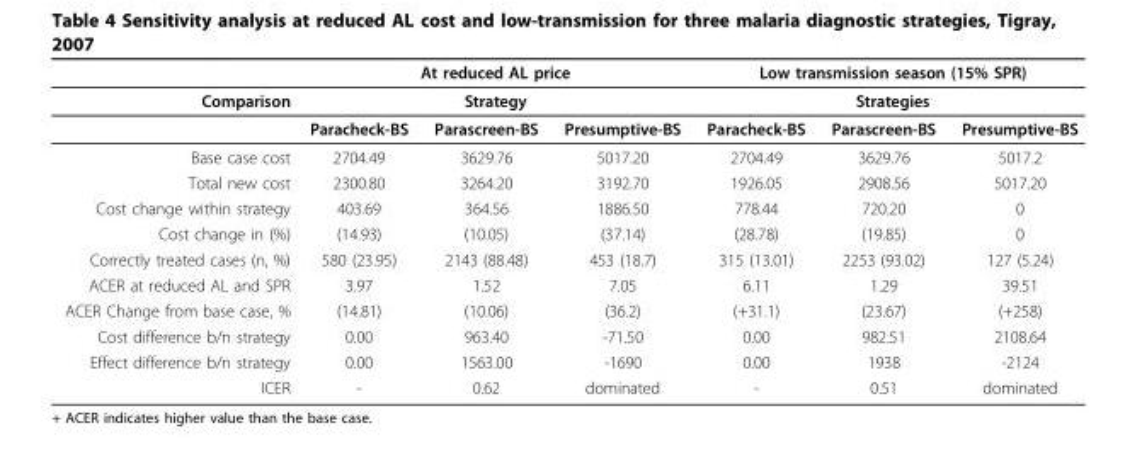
<table><thead><tr><td rowspan="3">Comparison</td><td rowspan="2" colspan="3">At reduced AL price Strategy</td><td rowspan="2" colspan="3">Low transmission season (15% SPR) Strategies</td></tr><tr></tr><tr><td>Paracheck-BS</td><td>Parascreen-BS</td><td>Presumptive-BS</td><td>Paracheck-BS</td><td>Parascreen-BS</td><td>Presumptive-BS</td></tr></thead><tbody><tr><td>Base case cost</td><td>2704.49</td><td>3629.76</td><td>5017.20</td><td>2704.49</td><td>3629.76</td><td>5017.2</td></tr><tr><td>Total new cost</td><td>2300.80</td><td>3264.20</td><td>3192.70</td><td>1926.05</td><td>2908.56</td><td>5017.20</td></tr><tr><td>Cost change within strategy</td><td>403.69</td><td>364.56</td><td>1886.50</td><td>778.44</td><td>720.20</td><td>0</td></tr><tr><td>Cost change in (%)</td><td>(14.93)</td><td>(10.05)</td><td>(37.14)</td><td>(28.78)</td><td>(19.85)</td><td>0</td></tr><tr><td>Correctly treated cases (n, %)</td><td>580 (23.95)</td><td>2143 (88.48)</td><td>453 (18.7)</td><td>315 (13.01)</td><td>2253 (93.02)</td><td>127 (5.24)</td></tr><tr><td>ACER at reduced AL and SPR</td><td>3.97</td><td>1.52</td><td>7.05</td><td>6.11</td><td>1.29</td><td>39.51</td></tr><tr><td>ACER Change from base case, %</td><td>(14.81)</td><td>(10.06)</td><td>(36.2)</td><td>(+31.1)</td><td>(23.67)</td><td>(+258)</td></tr><tr><td>Cost difference b/n strategy</td><td>0.00</td><td>963.40</td><td>-71.50</td><td>0.00</td><td>982.51</td><td>2108.64</td></tr><tr><td>Effect difference b/n strategy</td><td>0.00</td><td>1563.00</td><td>-1690</td><td>0.00</td><td>1938</td><td>-2124</td></tr><tr><td>ICER</td><td>-</td><td>0.62</td><td>dominated</td><td>-</td><td>0.51</td><td>dominated</td></tr></tbody></table>